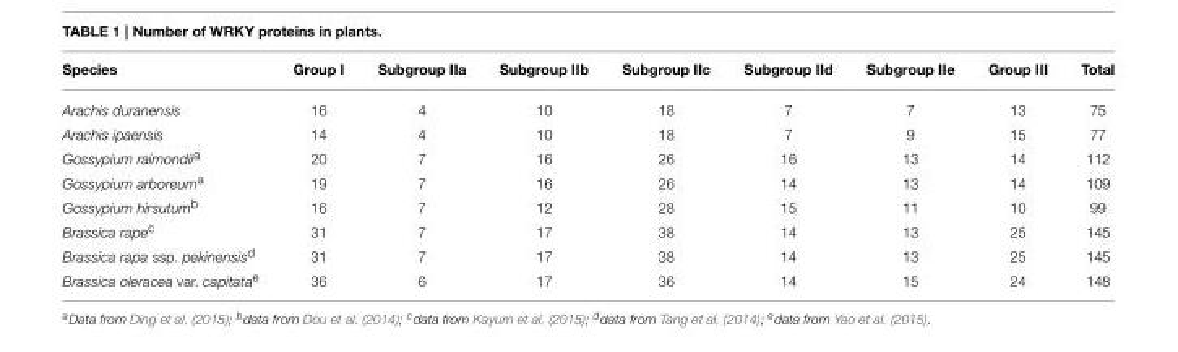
<table><thead><tr><td>Species</td><td>Group I</td><td>Subgroup IIa</td><td>Subgroup IIb</td><td>Subgroup IIc</td><td>Subgroup IId</td><td>Subgroup IIe</td><td>Group III</td><td>Total</td></tr></thead><tbody><tr><td>Arachis duranensis</td><td>16</td><td>4</td><td>10</td><td>18</td><td>7</td><td>7</td><td>13</td><td>75</td></tr><tr><td>Arachis ipaensis</td><td>14</td><td>4</td><td>10</td><td>18</td><td>7</td><td>9</td><td>15</td><td>77</td></tr><tr><td>Gossypium raimondii<sup>a</sup></td><td>20</td><td>7</td><td>16</td><td>26</td><td>16</td><td>13</td><td>14</td><td>112</td></tr><tr><td>Gossypium arboreum<sup>a</sup></td><td>19</td><td>7</td><td>16</td><td>26</td><td>14</td><td>13</td><td>14</td><td>109</td></tr><tr><td>Gossypium hirsutum<sup>b</sup></td><td>16</td><td>7</td><td>12</td><td>28</td><td>15</td><td>11</td><td>10</td><td>99</td></tr><tr><td>Brassica rape<sup>c</sup></td><td>31</td><td>7</td><td>17</td><td>38</td><td>14</td><td>13</td><td>25</td><td>145</td></tr><tr><td>Brassica rapa ssp. pekinensis<sup>d</sup></td><td>31</td><td>7</td><td>17</td><td>38</td><td>14</td><td>13</td><td>25</td><td>145</td></tr><tr><td>Brassica oleracea var. capitata<sup>e</sup></td><td>36</td><td>6</td><td>17</td><td>36</td><td>14</td><td>15</td><td>24</td><td>148</td></tr></tbody></table>